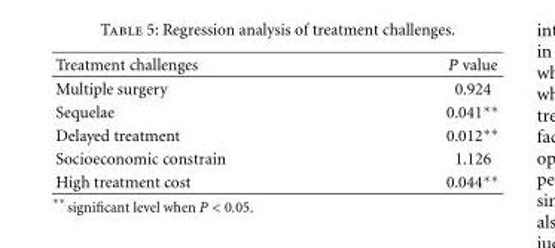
<table><thead><tr><td>Treatment challenges</td><td>P value</td></tr></thead><tbody><tr><td>Multiple surgery</td><td>0.924</td></tr><tr><td>Sequelae</td><td>0.041∗∗</td></tr><tr><td>Delayed treatment</td><td>0.012∗∗</td></tr><tr><td>Socioeconomic constrain</td><td>1.126</td></tr><tr><td>High treatment cost</td><td>0.044∗∗</td></tr></tbody></table>